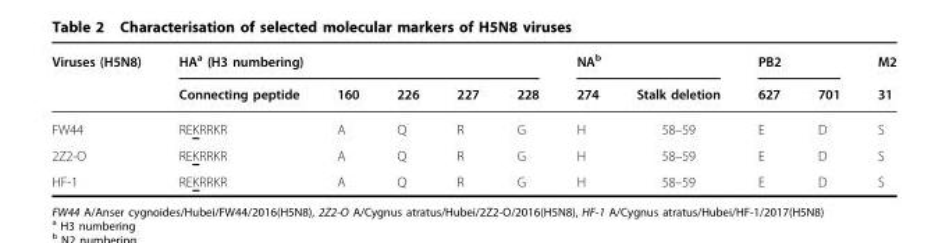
<table><thead><tr><td rowspan="2">Viruses (H5N8)</td><td colspan="5">HA<sup>a</sup> (H3 numbering)</td><td colspan="2">NA<sup>b</sup></td><td colspan="2">PB2</td><td rowspan="2">M2 31</td></tr><tr><td>Connecting peptide</td><td>160</td><td>226</td><td>227</td><td>228</td><td>274</td><td>Stalk deletion</td><td>627</td><td>701</td></tr></thead><tbody><tr><td>FW44</td><td>REKRRKR</td><td>A</td><td>Q</td><td>R</td><td>G</td><td>H</td><td>58–59</td><td>E</td><td>D</td><td>S</td></tr><tr><td>2Z2-O</td><td>REKRRKR</td><td>A</td><td>Q</td><td>R</td><td>G</td><td>H</td><td>58–59</td><td>E</td><td>D</td><td>S</td></tr><tr><td>HF-1</td><td>REKRRKR</td><td>A</td><td>Q</td><td>R</td><td>G</td><td>H</td><td>58–59</td><td>E</td><td>D</td><td>S</td></tr></tbody></table>